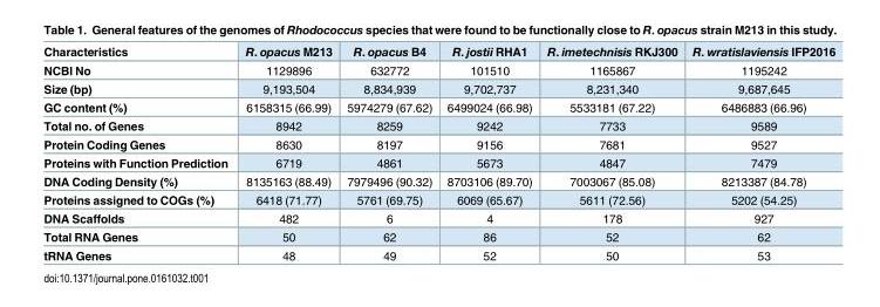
<table><thead><tr><td>Characteristics</td><td>R. opacus M213</td><td>R. opacus B4</td><td>R. jostii RHA1</td><td>R. imetechnisis RKJ300</td><td>R. wratislaviensis IFP2016</td></tr></thead><tbody><tr><td>NCBI No</td><td>1129896</td><td>632772</td><td>101510</td><td>1165867</td><td>1195242</td></tr><tr><td>Size (bp)</td><td>9,193,504</td><td>8,834,939</td><td>9,702,737</td><td>8,231,340</td><td>9,687,645</td></tr><tr><td>GC content (%)</td><td>6158315 (66.99)</td><td>5974279 (67.62)</td><td>6499024 (66.98)</td><td>5533181 (67.22)</td><td>6486883 (66.96)</td></tr><tr><td>Total no. of Genes</td><td>8942</td><td>8259</td><td>9242</td><td>7733</td><td>9589</td></tr><tr><td>Protein Coding Genes</td><td>8630</td><td>8197</td><td>9156</td><td>7681</td><td>9527</td></tr><tr><td>Proteins with Function Prediction</td><td>6719</td><td>4861</td><td>5673</td><td>4847</td><td>7479</td></tr><tr><td>DNA Coding Density (%)</td><td>8135163 (88.49)</td><td>7979496 (90.32)</td><td>8703106 (89.70)</td><td>7003067 (85.08)</td><td>8213387 (84.78)</td></tr><tr><td>Proteins assigned to COGs (%)</td><td>6418 (71.77)</td><td>5761 (69.75)</td><td>6069 (65.67)</td><td>5611 (72.56)</td><td>5202 (54.25)</td></tr><tr><td>DNA Scaffolds</td><td>482</td><td>6</td><td>4</td><td>178</td><td>927</td></tr><tr><td>Total RNA Genes</td><td>50</td><td>62</td><td>86</td><td>52</td><td>62</td></tr><tr><td>tRNA Genes</td><td>48</td><td>49</td><td>52</td><td>50</td><td>53</td></tr></tbody></table>